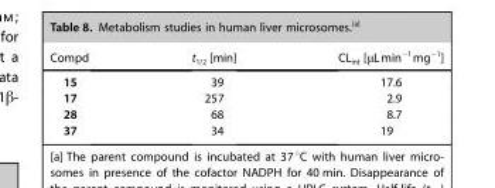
<table><thead><tr><td>Compd</td><td>t<sub>1/2</sub> [min]</td><td>CL<sub>int</sub> [μLmin<sup>−1</sup>mg<sup>−1</sup>]</td></tr></thead><tbody><tr><td>15</td><td>39</td><td>17.6</td></tr><tr><td>17</td><td>257</td><td>2.9</td></tr><tr><td>28</td><td>68</td><td>8.7</td></tr><tr><td>37</td><td>34</td><td>19</td></tr></tbody></table>